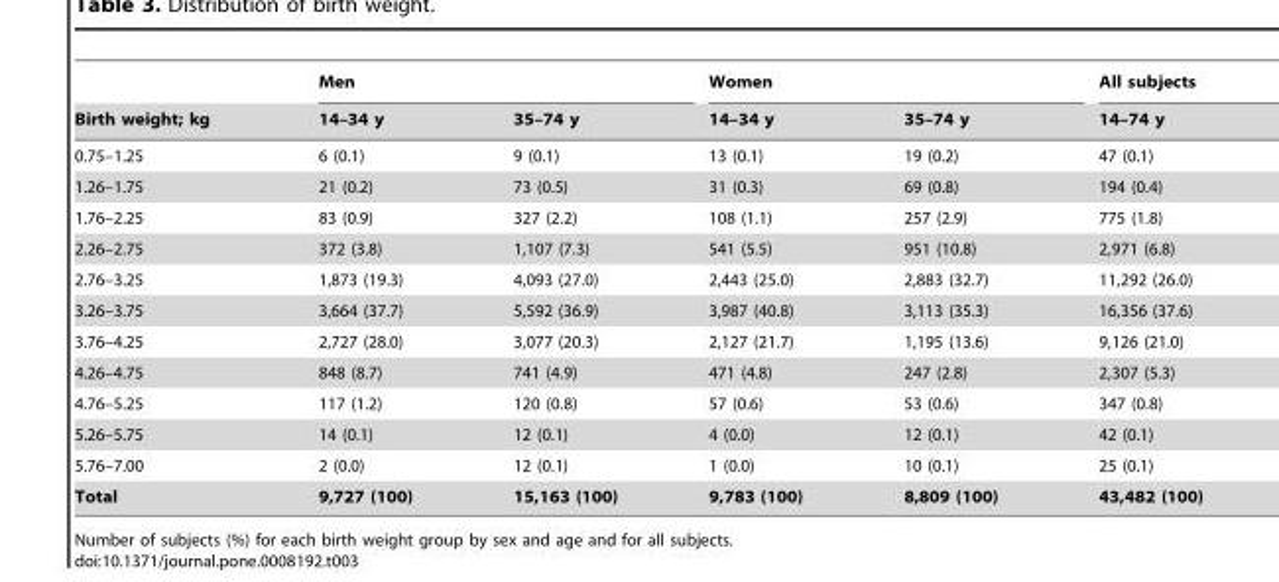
<table><thead><tr><td rowspan="2">Birth weight; kg</td><td colspan="2">Men</td><td colspan="2">Women</td><td rowspan="2">All subjects 14–74 y</td></tr><tr><td>14–34 y</td><td>35–74 y</td><td>14–34 y</td><td>35–74 y</td></tr></thead><tbody><tr><td>0.75–1.25</td><td>6 (0.1)</td><td>9 (0.1)</td><td>13 (0.1)</td><td>19 (0.2)</td><td>47 (0.1)</td></tr><tr><td>1.26–1.75</td><td>21 (0.2)</td><td>73 (0.5)</td><td>31 (0.3)</td><td>69 (0.8)</td><td>194 (0.4)</td></tr><tr><td>1.76–2.25</td><td>83 (0.9)</td><td>327 (2.2)</td><td>108 (1.1)</td><td>257 (2.9)</td><td>775 (1.8)</td></tr><tr><td>2.26–2.75</td><td>372 (3.8)</td><td>1,107 (7.3)</td><td>541 (5.5)</td><td>951 (10.8)</td><td>2,971 (6.8)</td></tr><tr><td>2.76–3.25</td><td>1,873 (19.3)</td><td>4,093 (27.0)</td><td>2,443 (25.0)</td><td>2,883 (32.7)</td><td>11,292 (26.0)</td></tr><tr><td>3.26–3.75</td><td>3,664 (37.7)</td><td>5,592 (36.9)</td><td>3,987 (40.8)</td><td>3,113 (35.3)</td><td>16,356 (37.6)</td></tr><tr><td>3.76–4.25</td><td>2,727 (28.0)</td><td>3,077 (20.3)</td><td>2,127 (21.7)</td><td>1,195 (13.6)</td><td>9,126 (21.0)</td></tr><tr><td>4.26–4.75</td><td>848 (8.7)</td><td>741 (4.9)</td><td>471 (4.8)</td><td>247 (2.8)</td><td>2,307 (5.3)</td></tr><tr><td>4.76–5.25</td><td>117 (1.2)</td><td>120 (0.8)</td><td>57 (0.6)</td><td>53 (0.6)</td><td>347 (0.8)</td></tr><tr><td>5.26–5.75</td><td>14 (0.1)</td><td>12 (0.1)</td><td>4 (0.0)</td><td>12 (0.1)</td><td>42 (0.1)</td></tr><tr><td>5.76–7.00</td><td>2 (0.0)</td><td>12 (0.1)</td><td>1 (0.0)</td><td>10 (0.1)</td><td>25 (0.1)</td></tr><tr><td>Total</td><td>9,727 (100)</td><td>15,163 (100)</td><td>9,783 (100)</td><td>8,809 (100)</td><td>43,482 (100)</td></tr></tbody></table>